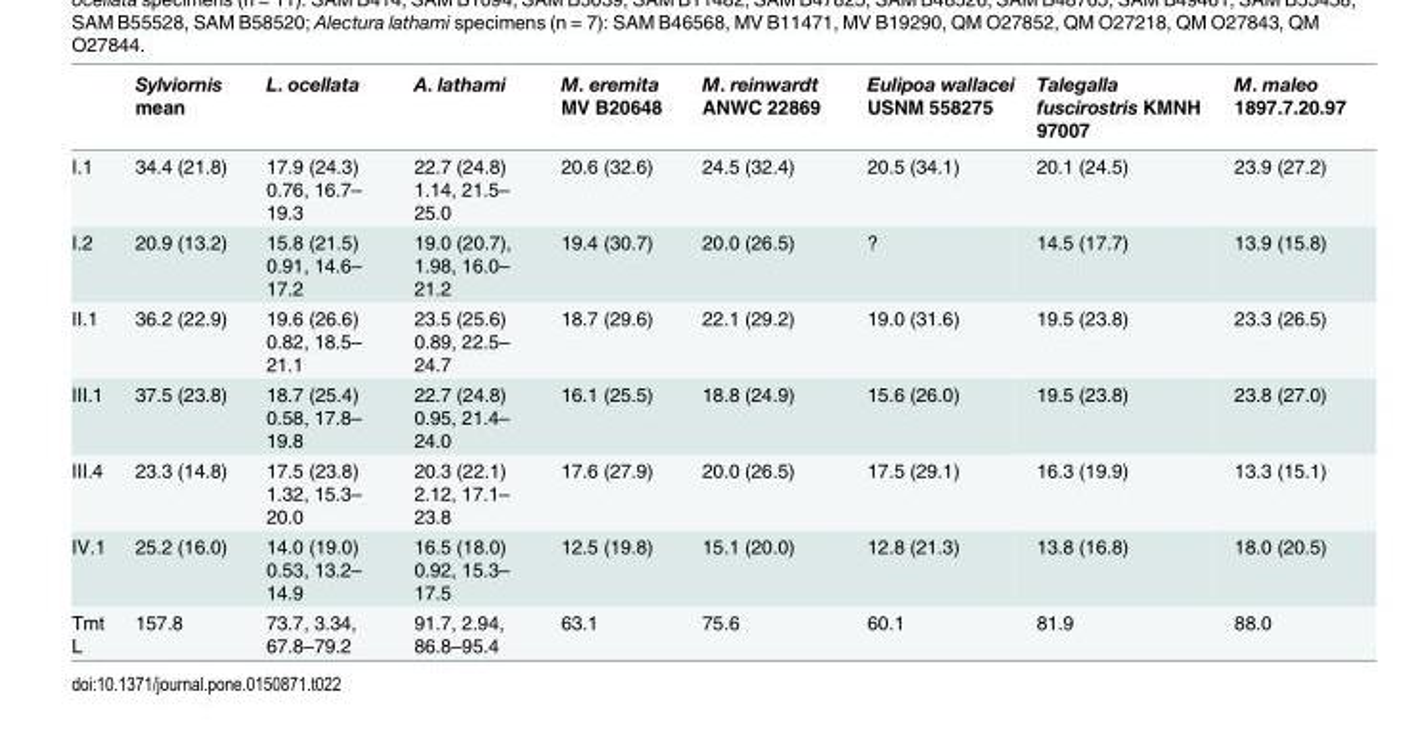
<table><thead><tr><td></td><td>Sylviornis mean</td><td>L. ocellata</td><td>A. lathami</td><td>M. eremita MV B20648</td><td>M. reinwardt ANWC 22869</td><td>Eulipoa wallacei USNM 558275</td><td>Talegalla fuscirostris KMNH 97007</td><td>M. maleo 1897.7.20.97</td></tr></thead><tbody><tr><td>I.1</td><td>34.4 (21.8)</td><td>17.9 (24.3) 0.76, 16.7– 19.3</td><td>22.7 (24.8) 1.14, 21.5– 25.0</td><td>20.6 (32.6)</td><td>24.5 (32.4)</td><td>20.5 (34.1)</td><td>20.1 (24.5)</td><td>23.9 (27.2)</td></tr><tr><td>I.2</td><td>20.9 (13.2)</td><td>15.8 (21.5) 0.91, 14.6– 17.2</td><td>19.0 (20.7), 1.98, 16.0– 21.2</td><td>19.4 (30.7)</td><td>20.0 (26.5)</td><td>?</td><td>14.5 (17.7)</td><td>13.9 (15.8)</td></tr><tr><td>II.1</td><td>36.2 (22.9)</td><td>19.6 (26.6) 0.82, 18.5– 21.1</td><td>23.5 (25.6) 0.89, 22.5– 24.7</td><td>18.7 (29.6)</td><td>22.1 (29.2)</td><td>19.0 (31.6)</td><td>19.5 (23.8)</td><td>23.3 (26.5)</td></tr><tr><td>III.1</td><td>37.5 (23.8)</td><td>18.7 (25.4) 0.58, 17.8– 19.8</td><td>22.7 (24.8) 0.95, 21.4– 24.0</td><td>16.1 (25.5)</td><td>18.8 (24.9)</td><td>15.6 (26.0)</td><td>19.5 (23.8)</td><td>23.8 (27.0)</td></tr><tr><td>III.4</td><td>23.3 (14.8)</td><td>17.5 (23.8) 1.32, 15.3– 20.0</td><td>20.3 (22.1) 2.12, 17.1– 23.8</td><td>17.6 (27.9)</td><td>20.0 (26.5)</td><td>17.5 (29.1)</td><td>16.3 (19.9)</td><td>13.3 (15.1)</td></tr><tr><td>IV.1</td><td>25.2 (16.0)</td><td>14.0 (19.0) 0.53, 13.2– 14.9</td><td>16.5 (18.0) 0.92, 15.3– 17.5</td><td>12.5 (19.8)</td><td>15.1 (20.0)</td><td>12.8 (21.3)</td><td>13.8 (16.8)</td><td>18.0 (20.5)</td></tr><tr><td>Tmt L</td><td>157.8</td><td>73.7, 3.34, 67.8–79.2</td><td>91.7, 2.94, 86.8–95.4</td><td>63.1</td><td>75.6</td><td>60.1</td><td>81.9</td><td>88.0</td></tr></tbody></table>